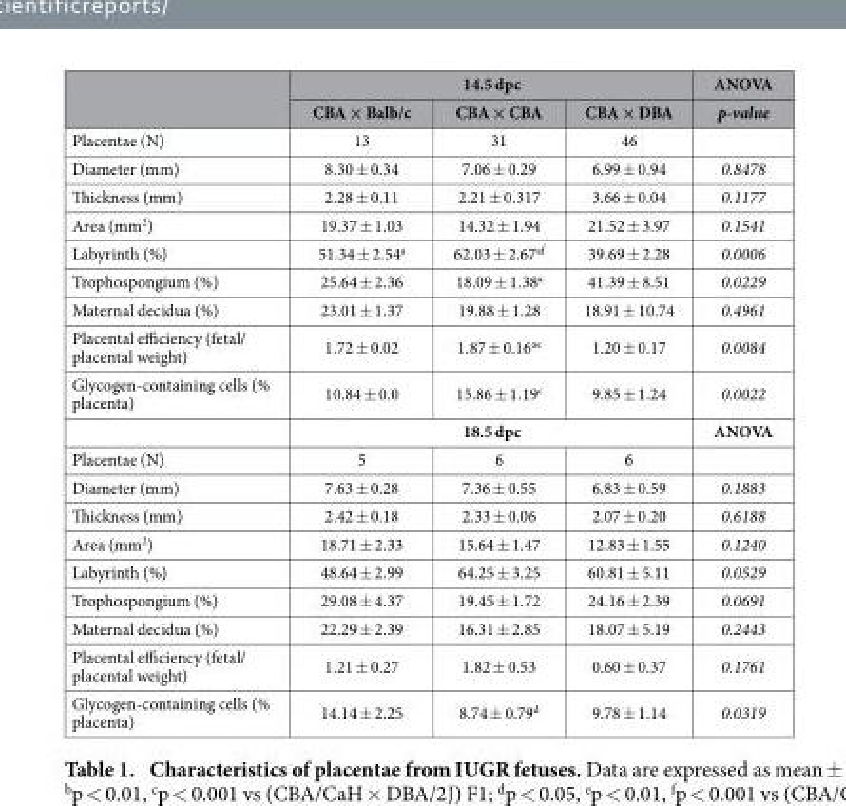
<table><thead><tr><td rowspan="2"></td><td colspan="3">14.5 dpc</td><td rowspan="2">ANOVA p-value</td></tr><tr><td>CBA × Balb/c</td><td>CBA × CBA</td><td>CBA × DBA</td></tr></thead><tbody><tr><td>Placentae (N)</td><td>13</td><td>31</td><td>46</td><td></td></tr><tr><td>Diameter (mm)</td><td>8.30 ± 0.34</td><td>7.06 ± 0.29</td><td>6.99 ± 0.94</td><td>0.8478</td></tr><tr><td>Thickness (mm)</td><td>2.28 ± 0.11</td><td>2.21 ± 0.317</td><td>3.66 ± 0.04</td><td>0.1177</td></tr><tr><td>Area (mm<sup>2</sup>)</td><td>19.37 ± 1.03</td><td>14.32 ± 1.94</td><td>21.52 ± 3.97</td><td>0.1541</td></tr><tr><td>Labyrinth (%)</td><td>51.34 ± 2.54<sup>a</sup></td><td>62.03 ± 2.67<sup>af</sup></td><td>39.69 ± 2.28</td><td>0.0006</td></tr><tr><td>Trophospongium (%)</td><td>25.64 ± 2.36</td><td>18.09 ± 1.38<sup>a</sup></td><td>41.39 ± 8.51</td><td>0.0229</td></tr><tr><td>Maternal decidua (%)</td><td>23.01 ± 1.37</td><td>19.88 ± 1.28</td><td>18.91 ± 10.74</td><td>0.4961</td></tr><tr><td>Placental efficiency (fetal/ placental weight)</td><td>1.72 ± 0.02</td><td>1.87 ± 0.16<sup>ae</sup></td><td>1.20 ± 0.17</td><td>0.0084</td></tr><tr><td rowspan="2">Glycogen-containing cells (% placenta)</td><td>10.84 ± 0.0</td><td>15.86 ± 1.19<sup>c</sup></td><td>9.85 ± 1.24</td><td>0.0022</td></tr><tr><td colspan="3">18.5 dpc</td><td>ANOVA</td></tr><tr><td>Placentae (N)</td><td>5</td><td>6</td><td>6</td><td></td></tr><tr><td>Diameter (mm)</td><td>7.63 ± 0.28</td><td>7.36 ± 0.55</td><td>6.83 ± 0.59</td><td>0.1883</td></tr><tr><td>Thickness (mm)</td><td>2.42 ± 0.18</td><td>2.33 ± 0.06</td><td>2.07 ± 0.20</td><td>0.6188</td></tr><tr><td>Area (mm<sup>2</sup>)</td><td>18.71 ± 2.33</td><td>15.64 ± 1.47</td><td>12.83 ± 1.55</td><td>0.1240</td></tr><tr><td>Labyrinth (%)</td><td>48.64 ± 2.99</td><td>64.25 ± 3.25</td><td>60.81 ± 5.11</td><td>0.0529</td></tr><tr><td>Trophospongium (%)</td><td>29.08 ± 4.37</td><td>19.45 ± 1.72</td><td>24.16 ± 2.39</td><td>0.0691</td></tr><tr><td>Maternal decidua (%)</td><td>22.29 ± 2.39</td><td>16.31 ± 2.85</td><td>18.07 ± 5.19</td><td>0.2443</td></tr><tr><td>Placental efficiency (fetal/ placental weight)</td><td>1.21 ± 0.27</td><td>1.82 ± 0.53</td><td>0.60 ± 0.37</td><td>0.1761</td></tr><tr><td>Glycogen-containing cells (% placenta)</td><td>14.14 ± 2.25</td><td>8.74 ± 0.79<sup>d</sup></td><td>9.78 ± 1.14</td><td>0.0319</td></tr></tbody></table>